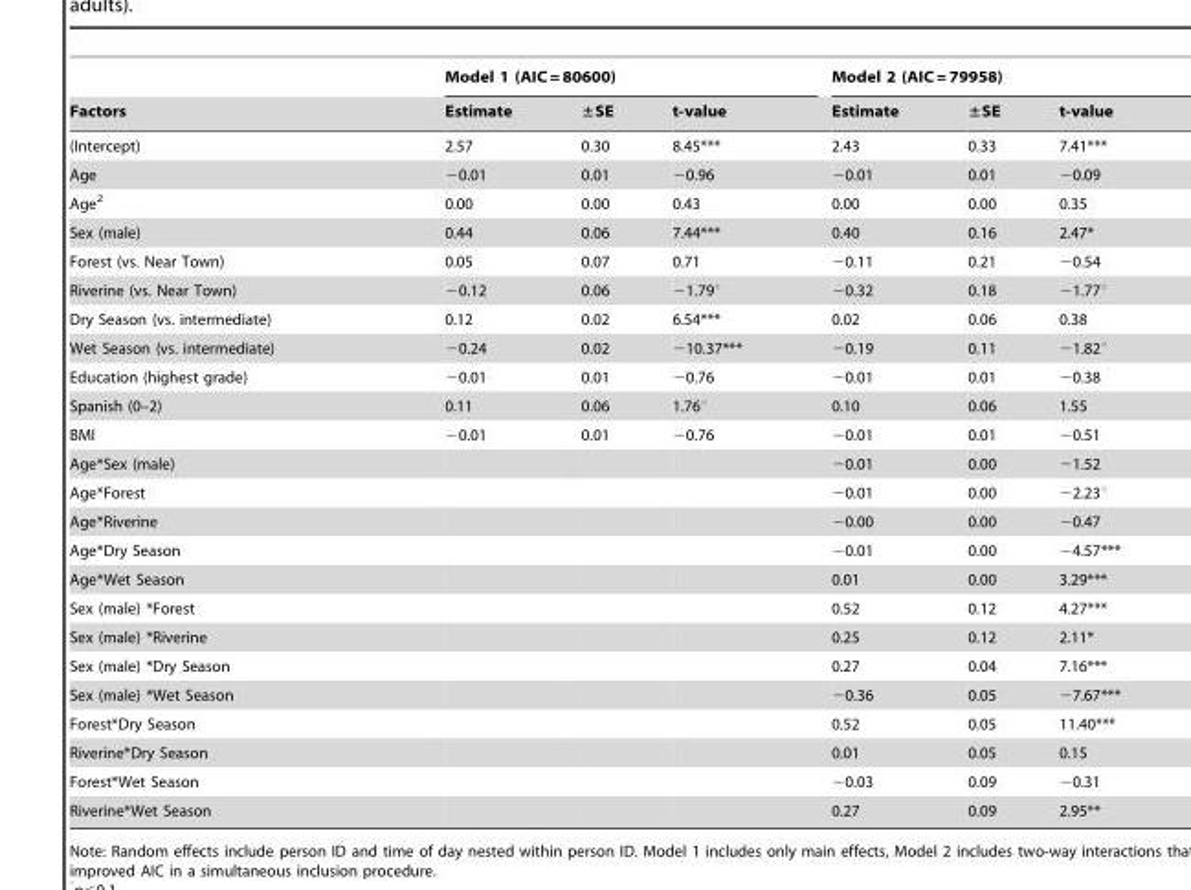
<table><thead><tr><td rowspan="2">Factors</td><td colspan="3">Model 1 (AIC = 80600)</td><td colspan="3">Model 2 (AIC = 79958)</td></tr><tr><td>Estimate</td><td>±SE</td><td>t-value</td><td>Estimate</td><td>±SE</td><td>t-value</td></tr></thead><tbody><tr><td>(Intercept)</td><td>2.57</td><td>0.30</td><td>8.45***</td><td>2.43</td><td>0.33</td><td>7.41***</td></tr><tr><td>Age</td><td>−0.01</td><td>0.01</td><td>−0.96</td><td>−0.01</td><td>0.01</td><td>−0.09</td></tr><tr><td>Age<sup>2</sup></td><td>0.00</td><td>0.00</td><td>0.43</td><td>0.00</td><td>0.00</td><td>0.35</td></tr><tr><td>Sex (male)</td><td>0.44</td><td>0.06</td><td>7.44***</td><td>0.40</td><td>0.16</td><td>2.47*</td></tr><tr><td>Forest (vs. Near Town)</td><td>0.05</td><td>0.07</td><td>0.71</td><td>−0.11</td><td>0.21</td><td>−0.54</td></tr><tr><td>Riverine (vs. Near Town)</td><td>−0.12</td><td>0.06</td><td>−1.79°</td><td>−0.32</td><td>0.18</td><td>−1.77°</td></tr><tr><td>Dry Season (vs. intermediate)</td><td>0.12</td><td>0.02</td><td>6.54***</td><td>0.02</td><td>0.06</td><td>0.38</td></tr><tr><td>Wet Season (vs. intermediate)</td><td>−0.24</td><td>0.02</td><td>−10.37***</td><td>−0.19</td><td>0.11</td><td>−1.82°</td></tr><tr><td>Education (highest grade)</td><td>−0.01</td><td>0.01</td><td>−0.76</td><td>−0.01</td><td>0.01</td><td>−0.38</td></tr><tr><td>Spanish (0–2)</td><td>0.11</td><td>0.06</td><td>1.76°</td><td>0.10</td><td>0.06</td><td>1.55</td></tr><tr><td>BMI</td><td>−0.01</td><td>0.01</td><td>−0.76</td><td>−0.01</td><td>0.01</td><td>−0.51</td></tr><tr><td>Age*Sex (male)</td><td></td><td></td><td></td><td>−0.01</td><td>0.00</td><td>−1.52</td></tr><tr><td>Age*Forest</td><td></td><td></td><td></td><td>−0.01</td><td>0.00</td><td>−2.23°</td></tr><tr><td>Age*Riverine</td><td></td><td></td><td></td><td>−0.00</td><td>0.00</td><td>−0.47</td></tr><tr><td>Age*Dry Season</td><td></td><td></td><td></td><td>−0.01</td><td>0.00</td><td>−4.57***</td></tr><tr><td>Age*Wet Season</td><td></td><td></td><td></td><td>0.01</td><td>0.00</td><td>3.29***</td></tr><tr><td>Sex (male) *Forest</td><td></td><td></td><td></td><td>0.52</td><td>0.12</td><td>4.27***</td></tr><tr><td>Sex (male) *Riverine</td><td></td><td></td><td></td><td>0.25</td><td>0.12</td><td>2.11*</td></tr><tr><td>Sex (male) *Dry Season</td><td></td><td></td><td></td><td>0.27</td><td>0.04</td><td>7.16***</td></tr><tr><td>Sex (male) *Wet Season</td><td></td><td></td><td></td><td>−0.36</td><td>0.05</td><td>−7.67***</td></tr><tr><td>Forest*Dry Season</td><td></td><td></td><td></td><td>0.52</td><td>0.05</td><td>11.40***</td></tr><tr><td>Riverine*Dry Season</td><td></td><td></td><td></td><td>0.01</td><td>0.05</td><td>0.15</td></tr><tr><td>Forest*Wet Season</td><td></td><td></td><td></td><td>−0.03</td><td>0.09</td><td>−0.31</td></tr><tr><td>Riverine*Wet Season</td><td></td><td></td><td></td><td>0.27</td><td>0.09</td><td>2.95**</td></tr></tbody></table>